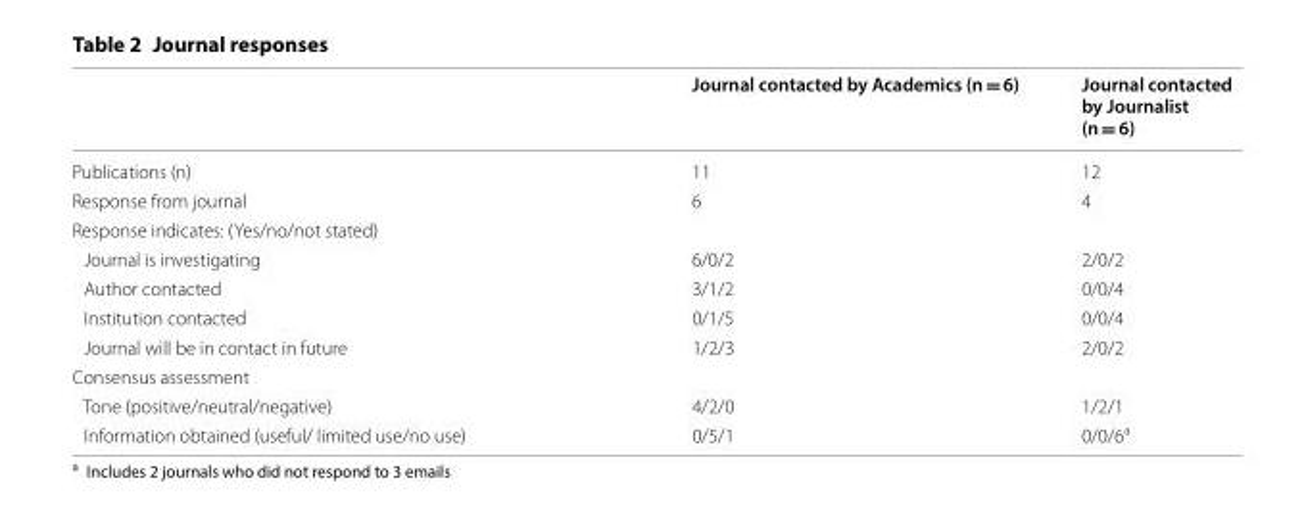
<table><thead><tr><td></td><td>Journal contacted by Academics (n = 6)</td><td>Journal contacted by Journalist (n = 6)</td></tr></thead><tbody><tr><td>Publications (n)</td><td>11</td><td>12</td></tr><tr><td>Response from journal</td><td>6</td><td>4</td></tr><tr><td colspan="3">Response indicates: (Yes/no/not stated)</td></tr><tr><td>Journal is investigating</td><td>6/0/2</td><td>2/0/2</td></tr><tr><td>Author contacted</td><td>3/1/2</td><td>0/0/4</td></tr><tr><td>Institution contacted</td><td>0/1/5</td><td>0/0/4</td></tr><tr><td>Journal will be in contact in future</td><td>1/2/3</td><td>2/0/2</td></tr><tr><td colspan="3">Consensus assessment</td></tr><tr><td>Tone (positive/neutral/negative)</td><td>4/2/0</td><td>1/2/1</td></tr><tr><td>Information obtained (useful/ limited use/no use)</td><td>0/5/1</td><td>0/0/6<sup>a</sup></td></tr></tbody></table>